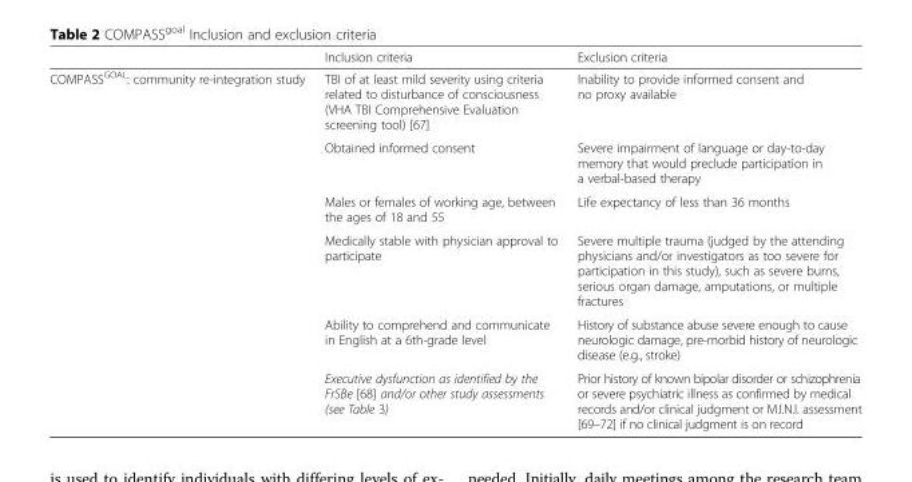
<table><thead><tr><td></td><td>Inclusion criteria</td><td>Exclusion criteria</td></tr></thead><tbody><tr><td rowspan="6">COMPASS<sup>GOAL</sup>: community re-integration study</td><td>TBI of at least mild severity using criteria related to disturbance of consciousness (VHA TBI Comprehensive Evaluation screening tool) [67]</td><td>Inability to provide informed consent and no proxy available</td></tr><tr><td>Obtained informed consent</td><td>Severe impairment of language or day-to-day memory that would preclude participation in a verbal-based therapy</td></tr><tr><td>Males or females of working age, between the ages of 18 and 55</td><td>Life expectancy of less than 36 months</td></tr><tr><td>Medically stable with physician approval to participate</td><td>Severe multiple trauma (judged by the attending physicians and/or investigators as too severe for participation in this study), such as severe burns, serious organ damage, amputations, or multiple fractures</td></tr><tr><td>Ability to comprehend and communicate in English at a 6th-grade level</td><td>History of substance abuse severe enough to cause neurologic damage, pre-morbid history of neurologic disease (e.g., stroke)</td></tr><tr><td>Executive dysfunction as identified by the FrSBe [68] and/or other study assessments (see Table 3)</td><td>Prior history of known bipolar disorder or schizophrenia or severe psychiatric illness as confirmed by medical records and/or clinical judgment or M.I.N.I. assessment [69–72] if no clinical judgment is on record</td></tr></tbody></table>